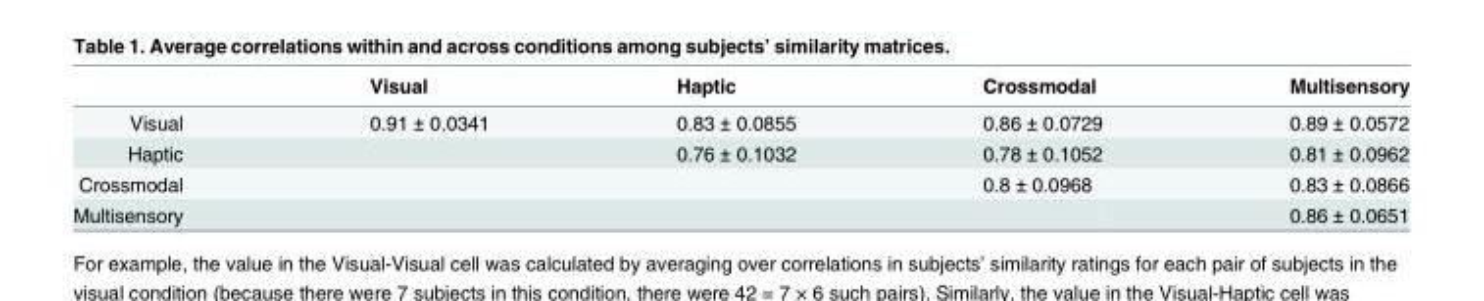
<table><thead><tr><td></td><td>Visual</td><td>Haptic</td><td>Crossmodal</td><td>Multisensory</td></tr></thead><tbody><tr><td>Visual</td><td>0.91 ± 0.0341</td><td>0.83 ± 0.0855</td><td>0.86 ± 0.0729</td><td>0.89 ± 0.0572</td></tr><tr><td>Haptic</td><td></td><td>0.76 ± 0.1032</td><td>0.78 ± 0.1052</td><td>0.81 ± 0.0962</td></tr><tr><td>Crossmodal</td><td></td><td></td><td>0.8 ± 0.0968</td><td>0.83 ± 0.0866</td></tr><tr><td>Multisensory</td><td></td><td></td><td></td><td>0.86 ± 0.0651</td></tr></tbody></table>